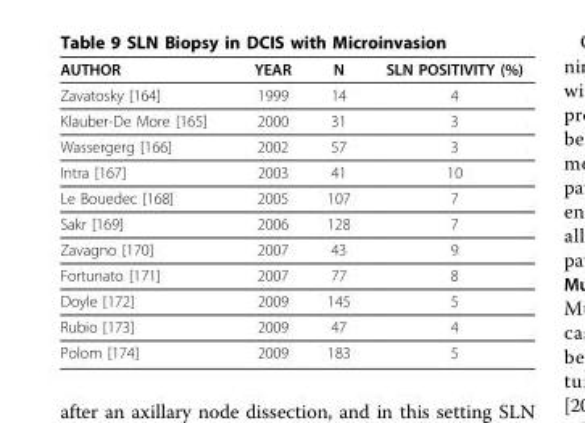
<table><thead><tr><td>AUTHOR</td><td>YEAR</td><td>N</td><td>SLN POSITIVITY (%)</td></tr></thead><tbody><tr><td>Zavatosky [164]</td><td>1999</td><td>14</td><td>4</td></tr><tr><td>Klauber-De More [165]</td><td>2000</td><td>31</td><td>3</td></tr><tr><td>Wassergerg [166]</td><td>2002</td><td>57</td><td>3</td></tr><tr><td>Intra [167]</td><td>2003</td><td>41</td><td>10</td></tr><tr><td>Le Bouedec [168]</td><td>2005</td><td>107</td><td>7</td></tr><tr><td>Sakr [169]</td><td>2006</td><td>128</td><td>7</td></tr><tr><td>Zavagno [170]</td><td>2007</td><td>43</td><td>9</td></tr><tr><td>Fortunato [171]</td><td>2007</td><td>77</td><td>8</td></tr><tr><td>Doyle [172]</td><td>2009</td><td>145</td><td>5</td></tr><tr><td>Rubio [173]</td><td>2009</td><td>47</td><td>4</td></tr><tr><td>Polom [174]</td><td>2009</td><td>183</td><td>5</td></tr></tbody></table>